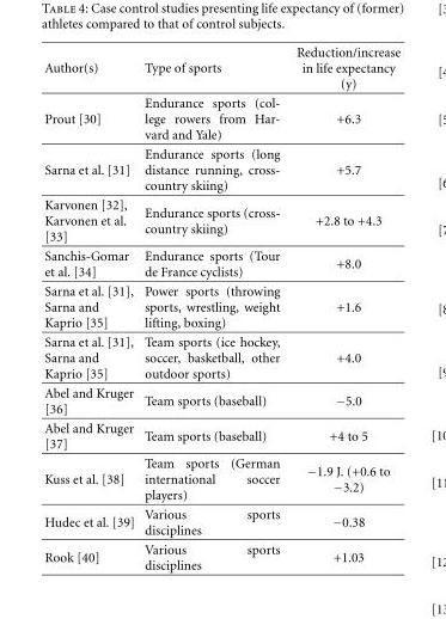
<table><thead><tr><td>Author(s)</td><td>Type of sports</td><td>Reduction/increase in life expectancy (y)</td></tr></thead><tbody><tr><td>Prout [30]</td><td>Endurance sports (col- lege rowers from Har- vard and Yale)</td><td>+6.3</td></tr><tr><td>Sarna et al. [31]</td><td>Endurance sports (long distance running, cross- country skiing)</td><td>+5.7</td></tr><tr><td>Karvonen [32], Karvonen et al. [33]</td><td>Endurance sports (cross- country skiing)</td><td>+2.8 to +4.3</td></tr><tr><td>Sanchis-Gomar et al. [34]</td><td>Endurance sports (Tour de France cyclists)</td><td>+8.0</td></tr><tr><td>Sarna et al. [31], Sarna and Kaprio [35]</td><td>Power sports (throwing sports, wrestling, weight lifting, boxing)</td><td>+1.6</td></tr><tr><td>Sarna et al. [31], Sarna and Kaprio [35]</td><td>Team sports (ice hockey, soccer, basketball, other outdoor sports)</td><td>+4.0</td></tr><tr><td>Abel and Kruger [36]</td><td>Team sports (baseball)</td><td>−5.0</td></tr><tr><td>Abel and Kruger [37]</td><td>Team sports (baseball)</td><td>+4 to 5</td></tr><tr><td>Kuss et al. [38]</td><td>Team sports (German international soccer players)</td><td>−1.9 J. (+0.6 to −3.2)</td></tr><tr><td>Hudec et al. [39]</td><td>Various sports disciplines</td><td>−0.38</td></tr><tr><td>Rook [40]</td><td>Various sports disciplines</td><td>+1.03</td></tr></tbody></table>